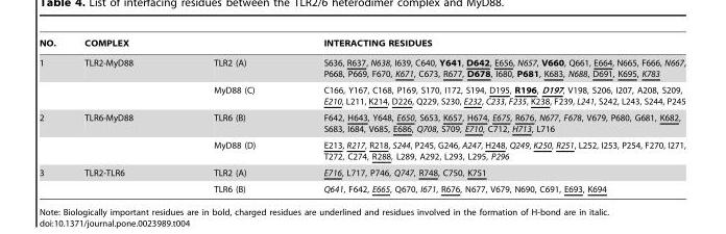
<table><thead><tr><td rowspan="2">NO. 1</td><td colspan="2">COMPLEX</td><td rowspan="2">INTERACTING RESIDUES S636, R637, N638, I639, C640, Y641, D642, E656, N657, V660, Q661, E664, N665, F666, N667, P668, P669, F670, K671, C673, R677, D678, I680, P681, K683, N688, D691, K695, K783</td></tr><tr><td>TLR2-MyD88</td><td>TLR2 (A)</td></tr></thead><tbody><tr><td></td><td></td><td>MyD88 (C)</td><td>C166, Y167, C168, P169, S170, I172, S194, D195, R196, D197, V198, S206, I207, A208, S209, E210, L211, K214, D226, Q229, S230, E232, C233, F235, K238, F239, L241, S242, L243, S244, P245</td></tr><tr><td rowspan="2">2</td><td>TLR6-MyD88</td><td>TLR6 (B)</td><td>F642, H643, Y648, E650, S653, K657, H674, E675, R676, N677, F678, V679, P680, G681, K682, S683, I684, V685, E686, Q708, S709, E710, C712, H713, L716</td></tr><tr><td></td><td>MyD88 (D)</td><td>E213, R217, R218, S244, P245, G246, A247, H248, Q249, K250, R251, L252, I253, P254, F270, I271, T272, C274, R288, L289, A292, L293, L295, P296</td></tr><tr><td rowspan="2">3</td><td>TLR2-TLR6</td><td>TLR2 (A)</td><td>E716, L717, P746, Q747, R748, C750, K751</td></tr><tr><td></td><td>TLR6 (B)</td><td>Q641, F642, E665, Q670, I671, R676, N677, V679, N690, C691, E693, K694</td></tr></tbody></table>